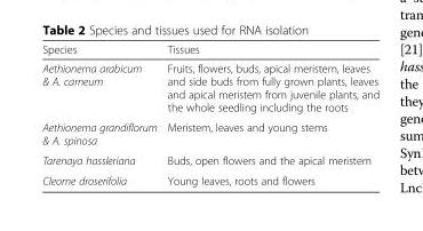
<table><thead><tr><td>Species</td><td>Tissues</td></tr></thead><tbody><tr><td>Aethionema arabicum &amp; A. carneum</td><td>Fruits, flowers, buds, apical meristem, leaves and side buds from fully grown plants, leaves and apical meristem from juvenile plants, and the whole seedling including the roots</td></tr><tr><td>Aethionema grandiflorum &amp; A. spinosa</td><td>Meristem, leaves and young stems</td></tr><tr><td>Tarenaya hassleriana</td><td>Buds, open flowers and the apical meristem</td></tr><tr><td>Cleome droserifolia</td><td>Young leaves, roots and flowers</td></tr></tbody></table>